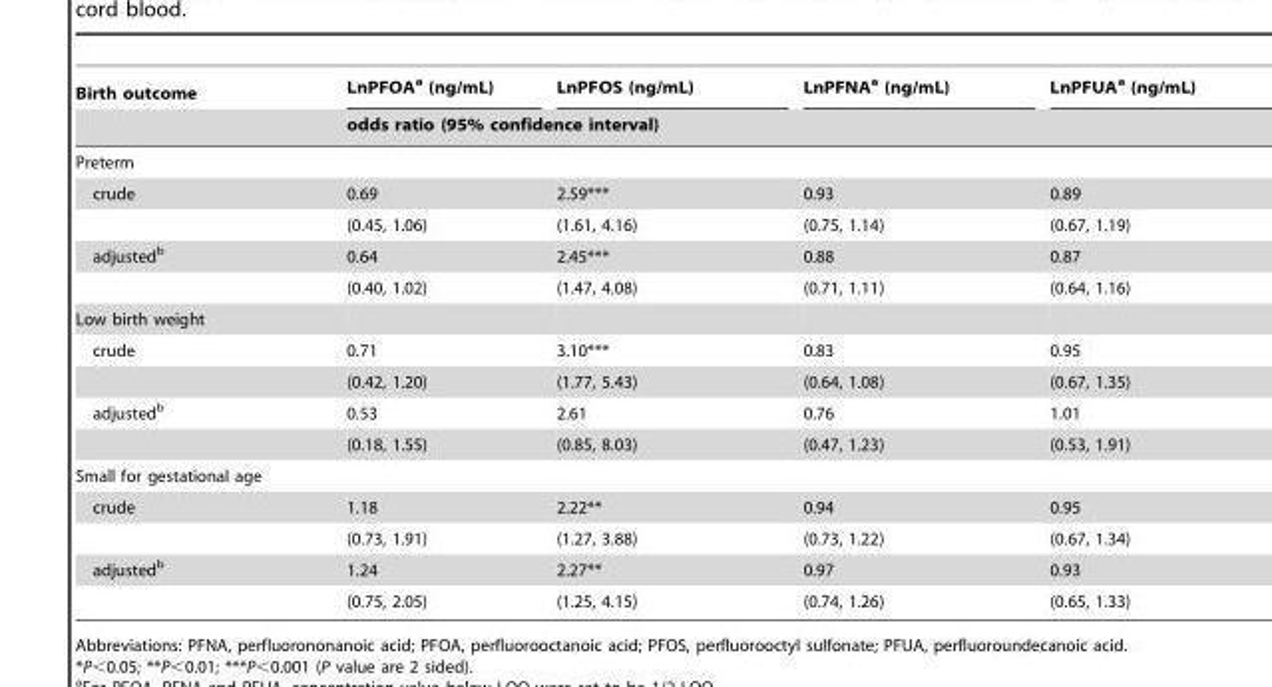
<table><thead><tr><td rowspan="2">Birth outcome</td><td>LnPFOA<sup>a</sup> (ng/mL)</td><td>LnPFOS (ng/mL)</td><td>LnPFNA<sup>a</sup> (ng/mL)</td><td>LnPFUA<sup>a</sup> (ng/mL)</td></tr><tr><td colspan="4">odds ratio (95% confidence interval)</td></tr></thead><tbody><tr><td colspan="5">Preterm</td></tr><tr><td rowspan="2">crude</td><td>0.69</td><td>2.59***</td><td>0.93</td><td>0.89</td></tr><tr><td>(0.45, 1.06)</td><td>(1.61, 4.16)</td><td>(0.75, 1.14)</td><td>(0.67, 1.19)</td></tr><tr><td rowspan="2">adjusted<sup>b</sup></td><td>0.64</td><td>2.45***</td><td>0.88</td><td>0.87</td></tr><tr><td>(0.40, 1.02)</td><td>(1.47, 4.08)</td><td>(0.71, 1.11)</td><td>(0.64, 1.16)</td></tr><tr><td colspan="5">Low birth weight</td></tr><tr><td rowspan="2">crude</td><td>0.71</td><td>3.10***</td><td>0.83</td><td>0.95</td></tr><tr><td>(0.42, 1.20)</td><td>(1.77, 5.43)</td><td>(0.64, 1.08)</td><td>(0.67, 1.35)</td></tr><tr><td rowspan="2">adjusted<sup>b</sup></td><td>0.53</td><td>2.61</td><td>0.76</td><td>1.01</td></tr><tr><td>(0.18, 1.55)</td><td>(0.85, 8.03)</td><td>(0.47, 1.23)</td><td>(0.53, 1.91)</td></tr><tr><td colspan="5">Small for gestational age</td></tr><tr><td rowspan="2">crude</td><td>1.18</td><td>2.22**</td><td>0.94</td><td>0.95</td></tr><tr><td>(0.73, 1.91)</td><td>(1.27, 3.88)</td><td>(0.73, 1.22)</td><td>(0.67, 1.34)</td></tr><tr><td rowspan="2">adjusted<sup>b</sup></td><td>1.24</td><td>2.27**</td><td>0.97</td><td>0.93</td></tr><tr><td>(0.75, 2.05)</td><td>(1.25, 4.15)</td><td>(0.74, 1.26)</td><td>(0.65, 1.33)</td></tr></tbody></table>